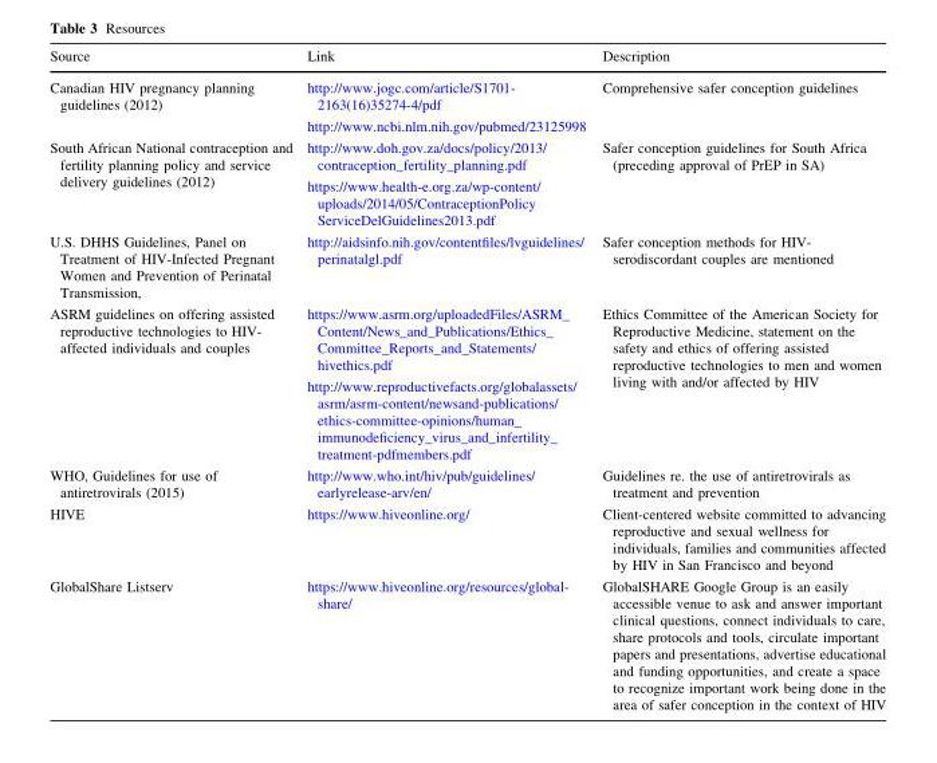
<table><thead><tr><td>Source</td><td>Link</td><td>Description</td></tr></thead><tbody><tr><td>Canadian HIV pregnancy planning guidelines (2012)</td><td>http://www.jogc.com/article/S1701- 2163(16)35274-4/pdf http://www.ncbi.nlm.nih.gov/pubmed/23125998</td><td>Comprehensive safer conception guidelines</td></tr><tr><td>South African National contraception and fertility planning policy and service delivery guidelines (2012)</td><td>http://www.doh.gov.za/docs/policy/2013/ contraception_fertility_planning.pdf https://www.health-e.org.za/wp-content/ uploads/2014/05/ContraceptionPolicy ServiceDelGuidelines2013.pdf</td><td>Safer conception guidelines for South Africa (preceding approval of PrEP in SA)</td></tr><tr><td>U.S. DHHS Guidelines, Panel on Treatment of HIV-Infected Pregnant Women and Prevention of Perinatal Transmission,</td><td>http://aidsinfo.nih.gov/contentfiles/lvguidelines/ perinatalgl.pdf</td><td>Safer conception methods for HIV- serodiscordant couples are mentioned</td></tr><tr><td>ASRM guidelines on offering assisted reproductive technologies to HIV- affected individuals and couples</td><td>https://www.asrm.org/uploadedFiles/ASRM_ Content/News_and_Publications/Ethics_ Committee_Reports_and_Statements/ hivethics.pdf http://www.reproductivefacts.org/globalassets/ asrm/asrm-content/newsand-publications/ ethics-committee-opinions/human_ immunodeficiency_virus_and_infertility_ treatment-pdfmembers.pdf</td><td>Ethics Committee of the American Society for Reproductive Medicine, statement on the safety and ethics of offering assisted reproductive technologies to men and women living with and/or affected by HIV</td></tr><tr><td>WHO, Guidelines for use of antiretrovirals (2015)</td><td>http://www.who.int/hiv/pub/guidelines/ earlyrelease-arv/en/</td><td>Guidelines re. the use of antiretrovirals as treatment and prevention</td></tr><tr><td>HIVE</td><td>https://www.hiveonline.org/</td><td>Client-centered website committed to advancing reproductive and sexual wellness for individuals, families and communities affected by HIV in San Francisco and beyond</td></tr><tr><td>GlobalShare Listserv</td><td>https://www.hiveonline.org/resources/global- share/</td><td>GlobalSHARE Google Group is an easily accessible venue to ask and answer important clinical questions, connect individuals to care, share protocols and tools, circulate important papers and presentations, advertise educational and funding opportunities, and create a space to recognize important work being done in the area of safer conception in the context of HIV</td></tr></tbody></table>